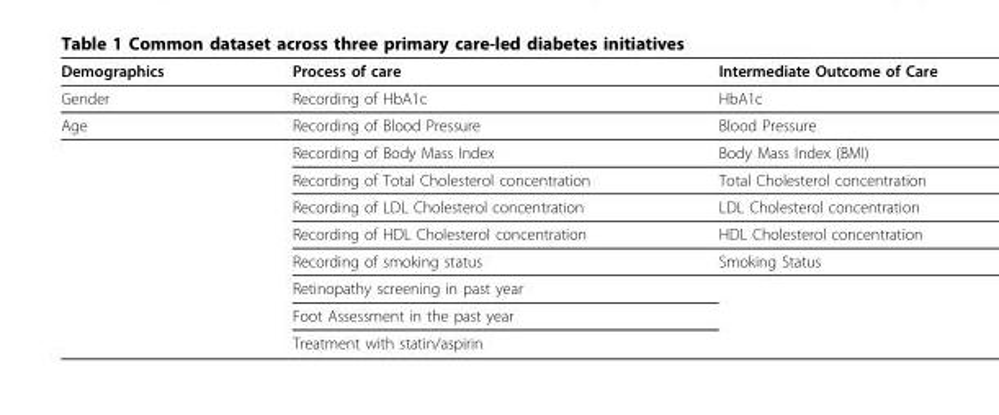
<table><thead><tr><td>Demographics</td><td>Process of care</td><td>Intermediate Outcome of Care</td></tr></thead><tbody><tr><td>Gender</td><td>Recording of HbA1c</td><td>HbA1c</td></tr><tr><td rowspan="9">Age</td><td>Recording of Blood Pressure</td><td>Blood Pressure</td></tr><tr><td>Recording of Body Mass Index</td><td>Body Mass Index (BMI)</td></tr><tr><td>Recording of Total Cholesterol concentration</td><td>Total Cholesterol concentration</td></tr><tr><td>Recording of LDL Cholesterol concentration</td><td>LDL Cholesterol concentration</td></tr><tr><td>Recording of HDL Cholesterol concentration</td><td>HDL Cholesterol concentration</td></tr><tr><td>Recording of smoking status</td><td>Smoking Status</td></tr><tr><td>Retinopathy screening in past year</td><td></td></tr><tr><td>Foot Assessment in the past year</td><td></td></tr><tr><td>Treatment with statin/aspirin</td><td></td></tr></tbody></table>